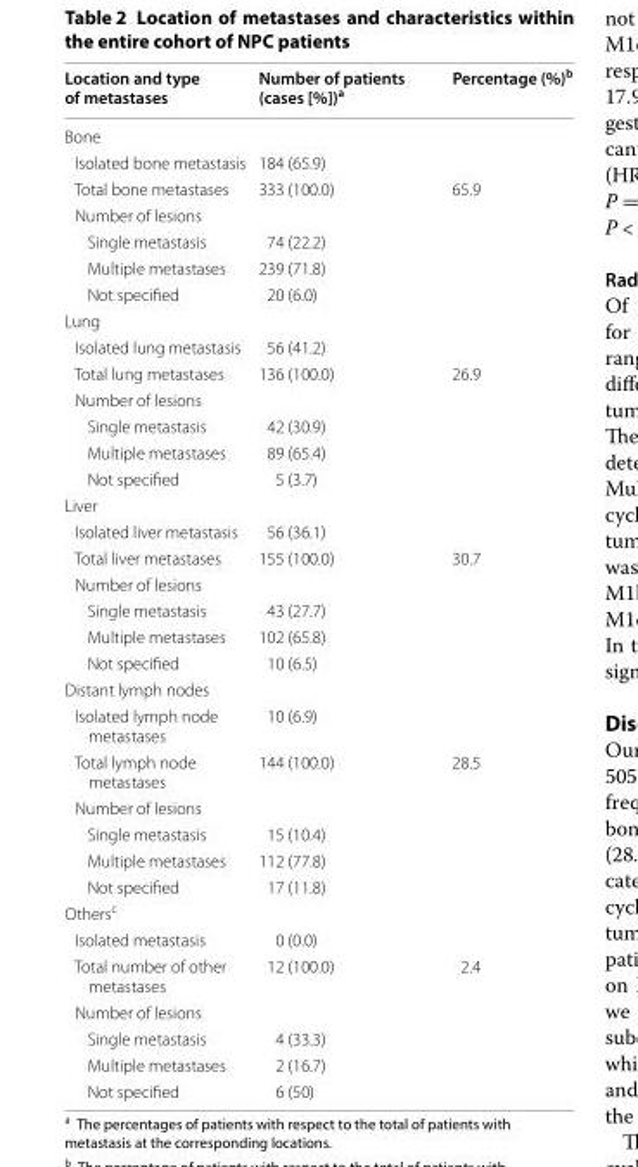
<table><thead><tr><td>Location and type of metastases</td><td>Number of patients (cases [%])<sup>a</sup></td><td>Percentage (%)<sup>b</sup></td></tr></thead><tbody><tr><td colspan="3">Bone</td></tr><tr><td>Isolated bone metastasis</td><td>184 (65.9)</td><td></td></tr><tr><td>Total bone metastases</td><td>333 (100.0)</td><td>65.9</td></tr><tr><td colspan="3">Number of lesions</td></tr><tr><td>Single metastasis</td><td>74 (22.2)</td><td></td></tr><tr><td>Multiple metastases</td><td>239 (71.8)</td><td></td></tr><tr><td>Not specified</td><td>20 (6.0)</td><td></td></tr><tr><td colspan="3">Lung</td></tr><tr><td>Isolated lung metastasis</td><td>56 (41.2)</td><td></td></tr><tr><td>Total lung metastases</td><td>136 (100.0)</td><td>26.9</td></tr><tr><td colspan="3">Number of lesions</td></tr><tr><td>Single metastasis</td><td>42 (30.9)</td><td></td></tr><tr><td>Multiple metastases</td><td>89 (65.4)</td><td></td></tr><tr><td>Not specified</td><td>5 (3.7)</td><td></td></tr><tr><td colspan="3">Liver</td></tr><tr><td>Isolated liver metastasis</td><td>56 (36.1)</td><td></td></tr><tr><td>Total liver metastases</td><td>155 (100.0)</td><td>30.7</td></tr><tr><td colspan="3">Number of lesions</td></tr><tr><td>Single metastasis</td><td>43 (27.7)</td><td></td></tr><tr><td>Multiple metastases</td><td>102 (65.8)</td><td></td></tr><tr><td>Not specified</td><td>10 (6.5)</td><td></td></tr><tr><td colspan="3">Distant lymph nodes</td></tr><tr><td>Isolated lymph node metastases</td><td>10 (6.9)</td><td></td></tr><tr><td>Total lymph node metastases</td><td>144 (100.0)</td><td>28.5</td></tr><tr><td colspan="3">Number of lesions</td></tr><tr><td>Single metastasis</td><td>15 (10.4)</td><td></td></tr><tr><td>Multiple metastases</td><td>112 (77.8)</td><td></td></tr><tr><td>Not specified</td><td>17 (11.8)</td><td></td></tr><tr><td colspan="3">Others<sup>c</sup></td></tr><tr><td>Isolated metastasis</td><td>0 (0.0)</td><td></td></tr><tr><td>Total number of other metastases</td><td>12 (100.0)</td><td>2.4</td></tr><tr><td colspan="3">Number of lesions</td></tr><tr><td>Single metastasis</td><td>4 (33.3)</td><td></td></tr><tr><td>Multiple metastases</td><td>2 (16.7)</td><td></td></tr><tr><td>Not specified</td><td>6 (50)</td><td></td></tr></tbody></table>